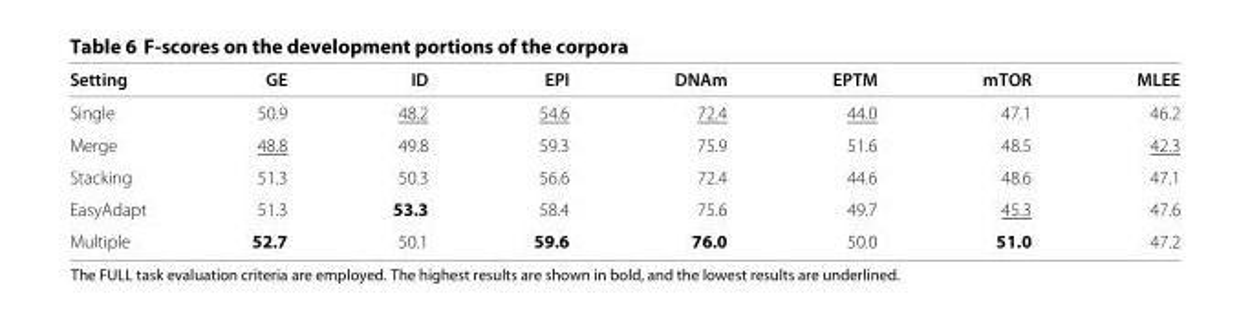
<table><thead><tr><td>Setting</td><td>GE</td><td>ID</td><td>EPI</td><td>DNAm</td><td>EPTM</td><td>mTOR</td><td>MLEE</td></tr></thead><tbody><tr><td>Single</td><td>50.9</td><td>48.2</td><td>54.6</td><td>72.4</td><td>44.0</td><td>47.1</td><td>46.2</td></tr><tr><td>Merge</td><td>48.8</td><td>49.8</td><td>59.3</td><td>75.9</td><td>51.6</td><td>48.5</td><td>42.3</td></tr><tr><td>Stacking</td><td>51.3</td><td>50.3</td><td>56.6</td><td>72.4</td><td>44.6</td><td>48.6</td><td>47.1</td></tr><tr><td>EasyAdapt</td><td>51.3</td><td>53.3</td><td>58.4</td><td>75.6</td><td>49.7</td><td>45.3</td><td>47.6</td></tr><tr><td>Multiple</td><td>52.7</td><td>50.1</td><td>59.6</td><td>76.0</td><td>50.0</td><td>51.0</td><td>47.2</td></tr></tbody></table>